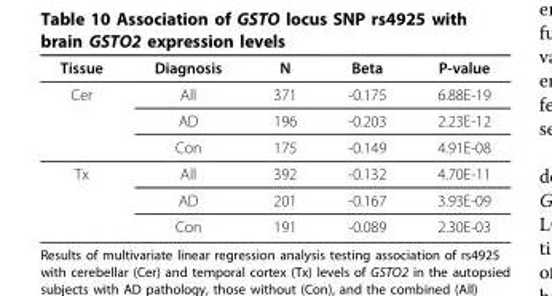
<table><thead><tr><td>Tissue</td><td>Diagnosis</td><td>N</td><td>Beta</td><td>P-value</td></tr></thead><tbody><tr><td rowspan="3">Cer</td><td>All</td><td>371</td><td>-0.175</td><td>6.88E-19</td></tr><tr><td>AD</td><td>196</td><td>-0.203</td><td>2.23E-12</td></tr><tr><td>Con</td><td>175</td><td>-0.149</td><td>4.91E-08</td></tr><tr><td rowspan="3">Tx</td><td>All</td><td>392</td><td>-0.132</td><td>4.70E-11</td></tr><tr><td>AD</td><td>201</td><td>-0.167</td><td>3.93E-09</td></tr><tr><td>Con</td><td>191</td><td>-0.089</td><td>2.30E-03</td></tr></tbody></table>